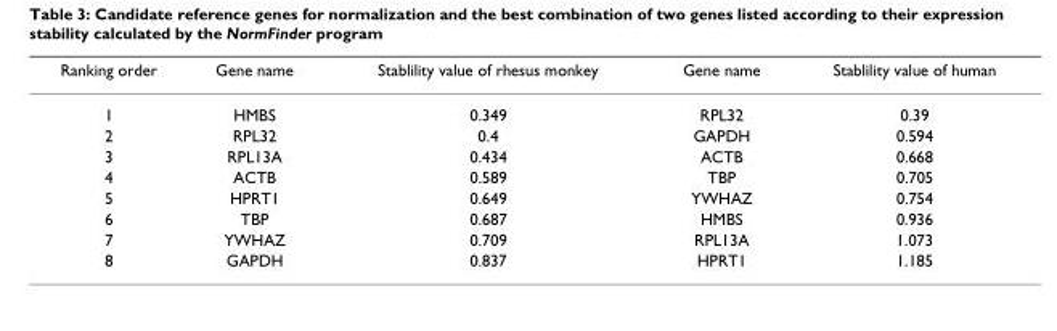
<table><thead><tr><td>Ranking order</td><td>Gene name</td><td>Stablility value of rhesus monkey</td><td>Gene name</td><td>Stablility value of human</td></tr></thead><tbody><tr><td>1</td><td>HMBS</td><td>0.349</td><td>RPL32</td><td>0.39</td></tr><tr><td>2</td><td>RPL32</td><td>0.4</td><td>GAPDH</td><td>0.594</td></tr><tr><td>3</td><td>RPL13A</td><td>0.434</td><td>ACTB</td><td>0.668</td></tr><tr><td>4</td><td>ACTB</td><td>0.589</td><td>TBP</td><td>0.705</td></tr><tr><td>5</td><td>HPRT1</td><td>0.649</td><td>YWHAZ</td><td>0.754</td></tr><tr><td>6</td><td>TBP</td><td>0.687</td><td>HMBS</td><td>0.936</td></tr><tr><td>7</td><td>YWHAZ</td><td>0.709</td><td>RPL13A</td><td>1.073</td></tr><tr><td>8</td><td>GAPDH</td><td>0.837</td><td>HPRT1</td><td>1.185</td></tr></tbody></table>